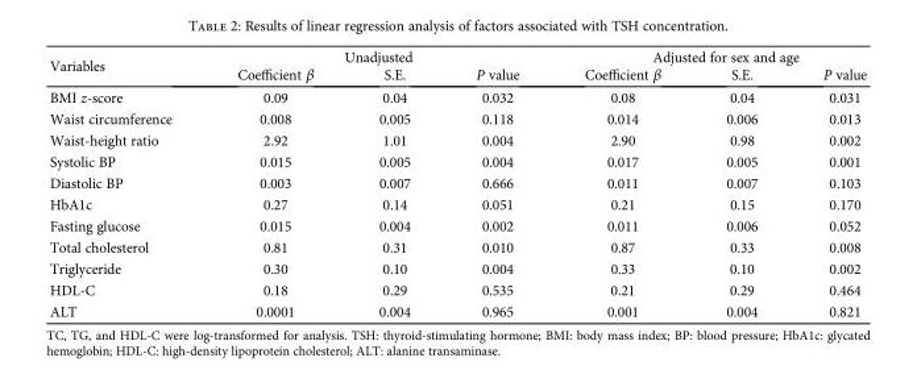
<table><thead><tr><td rowspan="2">Variables</td><td colspan="3">Unadjusted</td><td colspan="3">Adjusted for sex and age</td></tr><tr><td>Coefficient β</td><td>S.E.</td><td>P value</td><td>Coefficient β</td><td>S.E.</td><td>P value</td></tr></thead><tbody><tr><td>BMI z-score</td><td>0.09</td><td>0.04</td><td>0.032</td><td>0.08</td><td>0.04</td><td>0.031</td></tr><tr><td>Waist circumference</td><td>0.008</td><td>0.005</td><td>0.118</td><td>0.014</td><td>0.006</td><td>0.013</td></tr><tr><td>Waist-height ratio</td><td>2.92</td><td>1.01</td><td>0.004</td><td>2.90</td><td>0.98</td><td>0.002</td></tr><tr><td>Systolic BP</td><td>0.015</td><td>0.005</td><td>0.004</td><td>0.017</td><td>0.005</td><td>0.001</td></tr><tr><td>Diastolic BP</td><td>0.003</td><td>0.007</td><td>0.666</td><td>0.011</td><td>0.007</td><td>0.103</td></tr><tr><td>HbA1c</td><td>0.27</td><td>0.14</td><td>0.051</td><td>0.21</td><td>0.15</td><td>0.170</td></tr><tr><td>Fasting glucose</td><td>0.015</td><td>0.004</td><td>0.002</td><td>0.011</td><td>0.006</td><td>0.052</td></tr><tr><td>Total cholesterol</td><td>0.81</td><td>0.31</td><td>0.010</td><td>0.87</td><td>0.33</td><td>0.008</td></tr><tr><td>Triglyceride</td><td>0.30</td><td>0.10</td><td>0.004</td><td>0.33</td><td>0.10</td><td>0.002</td></tr><tr><td>HDL-C</td><td>0.18</td><td>0.29</td><td>0.535</td><td>0.21</td><td>0.29</td><td>0.464</td></tr><tr><td>ALT</td><td>0.0001</td><td>0.004</td><td>0.965</td><td>0.001</td><td>0.004</td><td>0.821</td></tr></tbody></table>